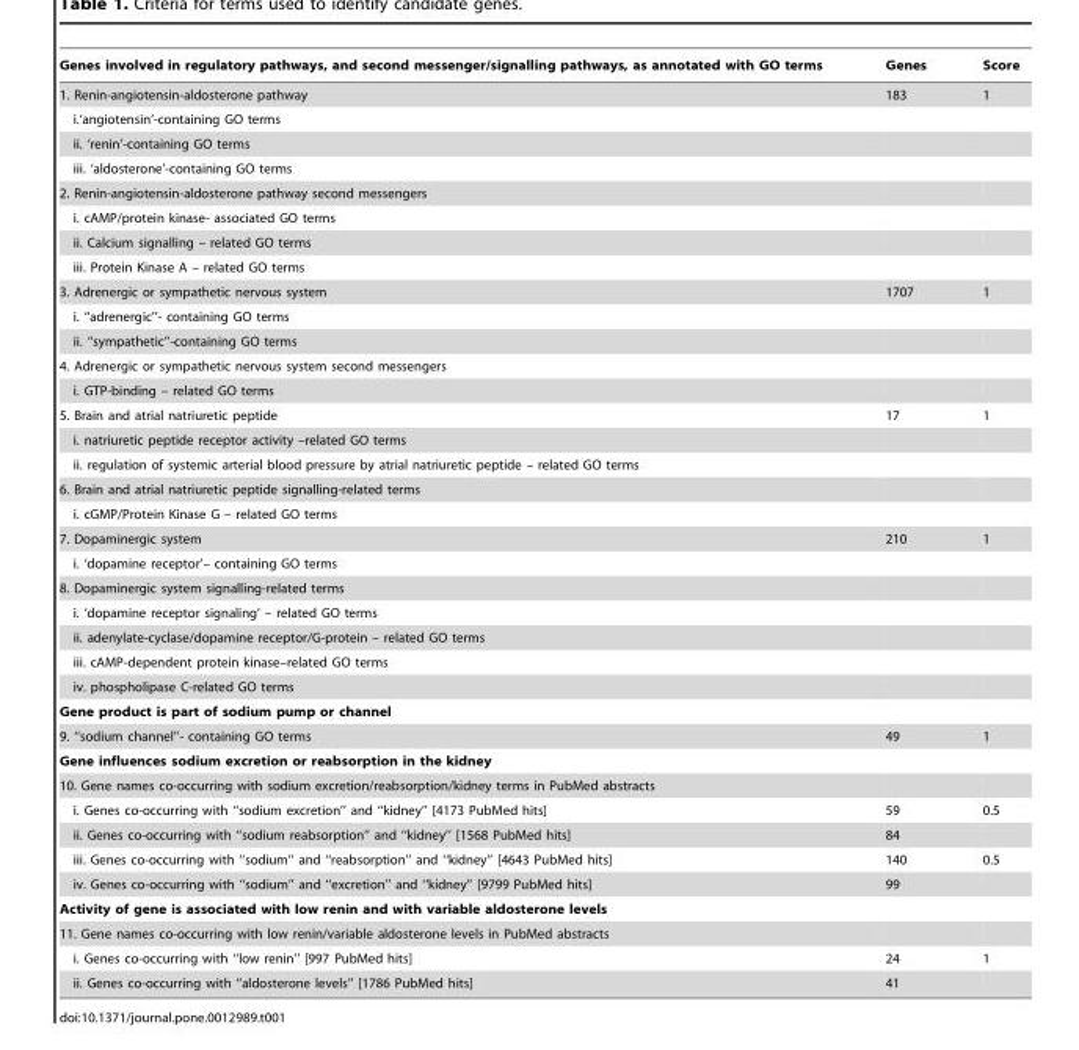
<table><thead><tr><td>Genes involved in regulatory pathways, and second messenger/signalling pathways, as annotated with GO terms</td><td>Genes</td><td>Score</td></tr></thead><tbody><tr><td>1. Renin-angiotensin-aldosterone pathway</td><td>183</td><td>1</td></tr><tr><td colspan="3">i.‘angiotensin’-containing GO terms</td></tr><tr><td colspan="3">ii. ‘renin’-containing GO terms</td></tr><tr><td colspan="3">iii. ‘aldosterone’-containing GO terms</td></tr><tr><td colspan="3">2. Renin-angiotensin-aldosterone pathway second messengers</td></tr><tr><td colspan="3">i. cAMP/protein kinase- associated GO terms</td></tr><tr><td colspan="3">ii. Calcium signalling – related GO terms</td></tr><tr><td colspan="3">iii. Protein Kinase A – related GO terms</td></tr><tr><td>3. Adrenergic or sympathetic nervous system</td><td>1707</td><td>1</td></tr><tr><td colspan="3">i. ‘‘adrenergic’’- containing GO terms</td></tr><tr><td colspan="3">ii. ‘‘sympathetic’’-containing GO terms</td></tr><tr><td colspan="3">4. Adrenergic or sympathetic nervous system second messengers</td></tr><tr><td colspan="3">i. GTP-binding – related GO terms</td></tr><tr><td>5. Brain and atrial natriuretic peptide</td><td>17</td><td>1</td></tr><tr><td colspan="3">i. natriuretic peptide receptor activity –related GO terms</td></tr><tr><td colspan="3">ii. regulation of systemic arterial blood pressure by atrial natriuretic peptide – related GO terms</td></tr><tr><td colspan="3">6. Brain and atrial natriuretic peptide signalling-related terms</td></tr><tr><td colspan="3">i. cGMP/Protein Kinase G – related GO terms</td></tr><tr><td>7. Dopaminergic system</td><td>210</td><td>1</td></tr><tr><td colspan="3">i. ‘dopamine receptor’– containing GO terms</td></tr><tr><td colspan="3">8. Dopaminergic system signalling-related terms</td></tr><tr><td colspan="3">i. ‘dopamine receptor signaling’ – related GO terms</td></tr><tr><td colspan="3">ii. adenylate-cyclase/dopamine receptor/G-protein – related GO terms</td></tr><tr><td colspan="3">iii. cAMP-dependent protein kinase–related GO terms</td></tr><tr><td colspan="3">iv. phospholipase C-related GO terms</td></tr><tr><td colspan="3">Gene product is part of sodium pump or channel</td></tr><tr><td>9. ‘‘sodium channel’’- containing GO terms</td><td>49</td><td>1</td></tr><tr><td colspan="3">Gene influences sodium excretion or reabsorption in the kidney</td></tr><tr><td colspan="3">10. Gene names co-occurring with sodium excretion/reabsorption/kidney terms in PubMed abstracts</td></tr><tr><td>i. Genes co-occurring with ‘‘sodium excretion’’ and ‘‘kidney’’ [4173 PubMed hits]</td><td>59</td><td>0.5</td></tr><tr><td>ii. Genes co-occurring with ‘‘sodium reabsorption’’ and ‘‘kidney’’ [1568 PubMed hits]</td><td>84</td><td></td></tr><tr><td>iii. Genes co-occurring with ‘‘sodium’’ and ‘‘reabsorption’’ and ‘‘kidney’’ [4643 PubMed hits]</td><td>140</td><td>0.5</td></tr><tr><td>iv. Genes co-occurring with ‘‘sodium’’ and ‘‘excretion’’ and ‘‘kidney’’ [9799 PubMed hits]</td><td>99</td><td></td></tr><tr><td colspan="3">Activity of gene is associated with low renin and with variable aldosterone levels</td></tr><tr><td colspan="3">11. Gene names co-occurring with low renin/variable aldosterone levels in PubMed abstracts</td></tr><tr><td>i. Genes co-occurring with ‘‘low renin’’ [997 PubMed hits]</td><td>24</td><td>1</td></tr><tr><td>ii. Genes co-occurring with ‘‘aldosterone levels’’ [1786 PubMed hits]</td><td>41</td><td></td></tr></tbody></table>